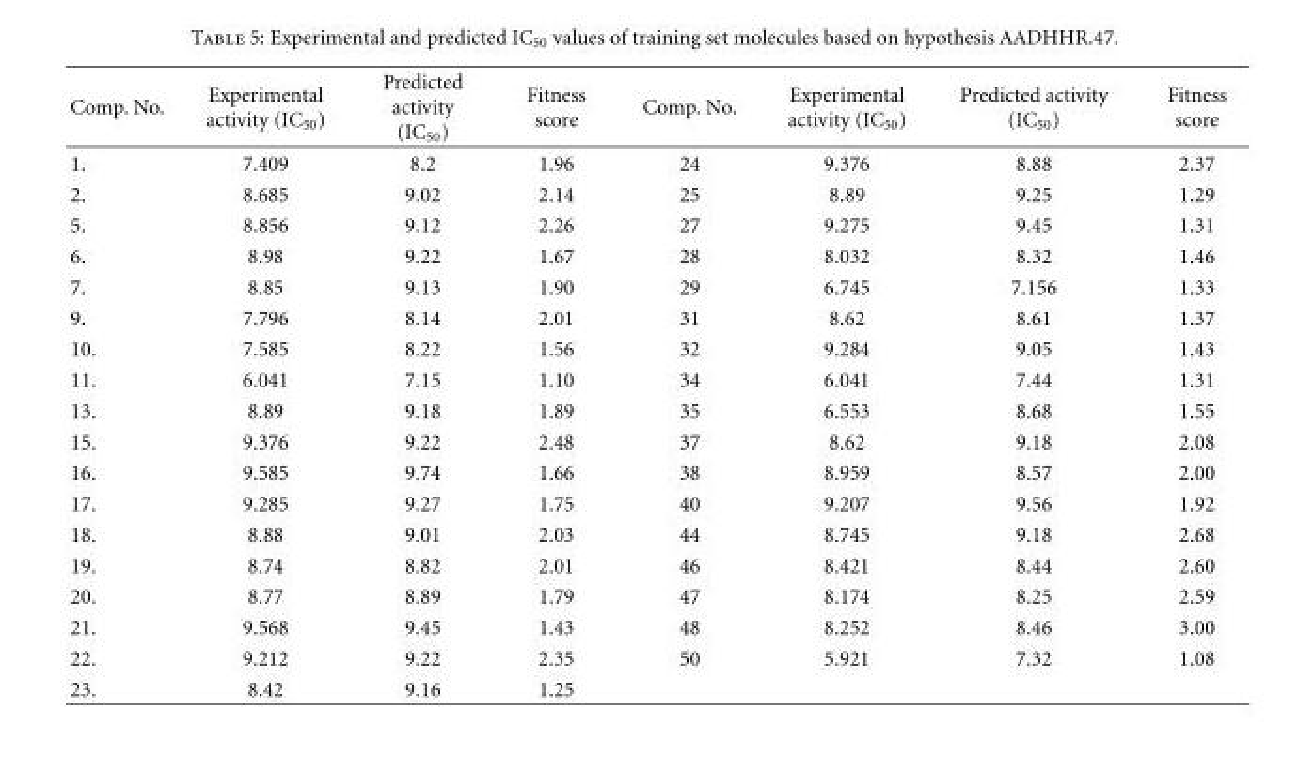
<table><thead><tr><td>Comp. No.</td><td>Experimental activity (IC<sub>50</sub>)</td><td>Predicted activity (IC<sub>50</sub>)</td><td>Fitness score</td><td>Comp. No.</td><td>Experimental activity (IC<sub>50</sub>)</td><td>Predicted activity (IC<sub>50</sub>)</td><td>Fitness score</td></tr></thead><tbody><tr><td>1.</td><td>7.409</td><td>8.2</td><td>1.96</td><td>24</td><td>9.376</td><td>8.88</td><td>2.37</td></tr><tr><td>2.</td><td>8.685</td><td>9.02</td><td>2.14</td><td>25</td><td>8.89</td><td>9.25</td><td>1.29</td></tr><tr><td>5.</td><td>8.856</td><td>9.12</td><td>2.26</td><td>27</td><td>9.275</td><td>9.45</td><td>1.31</td></tr><tr><td>6.</td><td>8.98</td><td>9.22</td><td>1.67</td><td>28</td><td>8.032</td><td>8.32</td><td>1.46</td></tr><tr><td>7.</td><td>8.85</td><td>9.13</td><td>1.90</td><td>29</td><td>6.745</td><td>7.156</td><td>1.33</td></tr><tr><td>9.</td><td>7.796</td><td>8.14</td><td>2.01</td><td>31</td><td>8.62</td><td>8.61</td><td>1.37</td></tr><tr><td>10.</td><td>7.585</td><td>8.22</td><td>1.56</td><td>32</td><td>9.284</td><td>9.05</td><td>1.43</td></tr><tr><td>11.</td><td>6.041</td><td>7.15</td><td>1.10</td><td>34</td><td>6.041</td><td>7.44</td><td>1.31</td></tr><tr><td>13.</td><td>8.89</td><td>9.18</td><td>1.89</td><td>35</td><td>6.553</td><td>8.68</td><td>1.55</td></tr><tr><td>15.</td><td>9.376</td><td>9.22</td><td>2.48</td><td>37</td><td>8.62</td><td>9.18</td><td>2.08</td></tr><tr><td>16.</td><td>9.585</td><td>9.74</td><td>1.66</td><td>38</td><td>8.959</td><td>8.57</td><td>2.00</td></tr><tr><td>17.</td><td>9.285</td><td>9.27</td><td>1.75</td><td>40</td><td>9.207</td><td>9.56</td><td>1.92</td></tr><tr><td>18.</td><td>8.88</td><td>9.01</td><td>2.03</td><td>44</td><td>8.745</td><td>9.18</td><td>2.68</td></tr><tr><td>19.</td><td>8.74</td><td>8.82</td><td>2.01</td><td>46</td><td>8.421</td><td>8.44</td><td>2.60</td></tr><tr><td>20.</td><td>8.77</td><td>8.89</td><td>1.79</td><td>47</td><td>8.174</td><td>8.25</td><td>2.59</td></tr><tr><td>21.</td><td>9.568</td><td>9.45</td><td>1.43</td><td>48</td><td>8.252</td><td>8.46</td><td>3.00</td></tr><tr><td>22.</td><td>9.212</td><td>9.22</td><td>2.35</td><td>50</td><td>5.921</td><td>7.32</td><td>1.08</td></tr><tr><td>23.</td><td>8.42</td><td>9.16</td><td>1.25</td><td></td><td></td><td></td><td></td></tr></tbody></table>